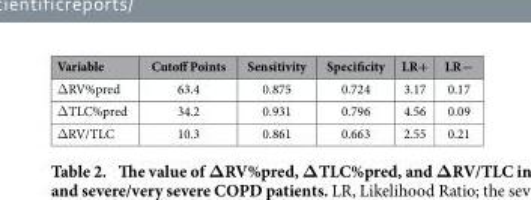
<table><thead><tr><td>Variable</td><td>Cutoff Points</td><td>Sensitivity</td><td>Specificity</td><td>LR+</td><td>LR−</td></tr></thead><tbody><tr><td>Δ RV%pred</td><td>63.4</td><td>0.875</td><td>0.724</td><td>3.17</td><td>0.17</td></tr><tr><td>Δ TLC%pred</td><td>34.2</td><td>0.931</td><td>0.796</td><td>4.56</td><td>0.09</td></tr><tr><td>Δ RV/TLC</td><td>10.3</td><td>0.861</td><td>0.663</td><td>2.55</td><td>0.21</td></tr></tbody></table>